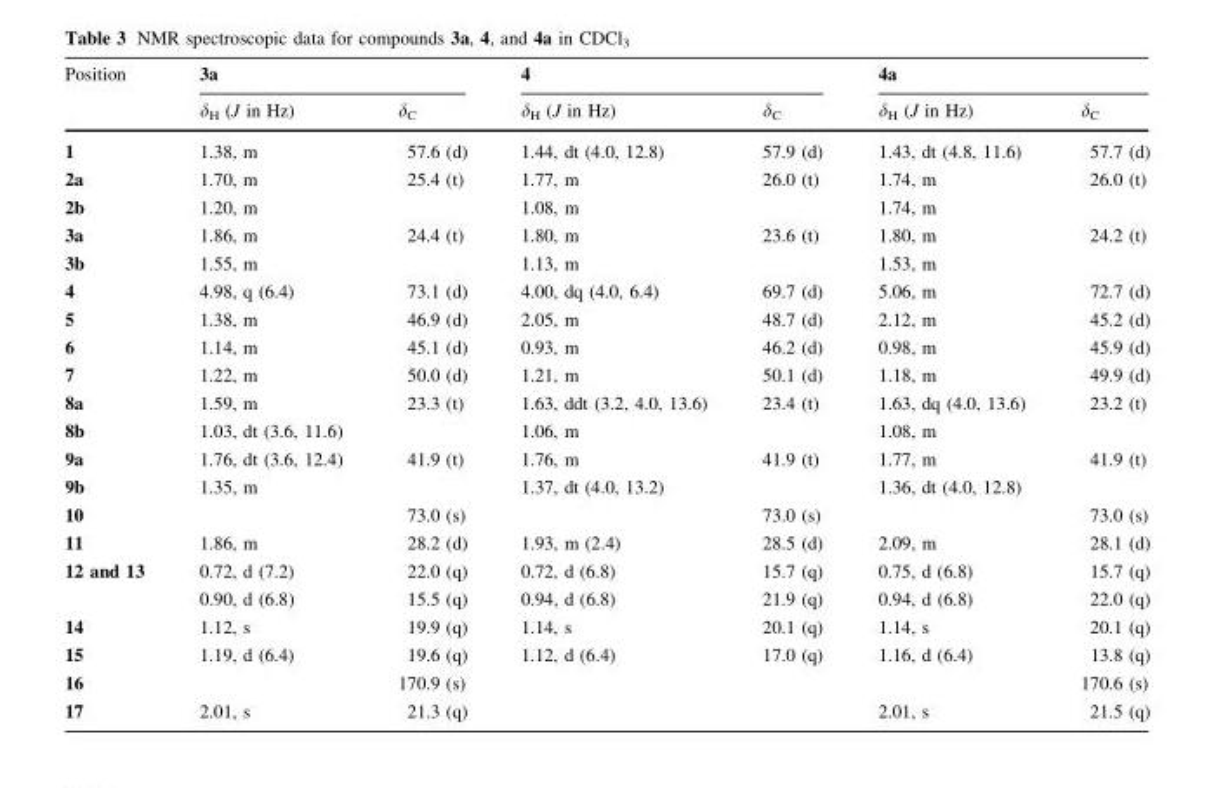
<table><thead><tr><td rowspan="2">Position</td><td colspan="2">3a</td><td colspan="2">4</td><td colspan="2">4a</td></tr><tr><td>δ<sub>H</sub> (J in Hz)</td><td>δ<sub>C</sub></td><td>δ<sub>H</sub> (J in Hz)</td><td>δ<sub>C</sub></td><td>δ<sub>H</sub> (J in Hz)</td><td>δ<sub>C</sub></td></tr></thead><tbody><tr><td>1</td><td>1.38, m</td><td>57.6 (d)</td><td>1.44, dt (4.0, 12.8)</td><td>57.9 (d)</td><td>1.43, dt (4.8, 11.6)</td><td>57.7 (d)</td></tr><tr><td>2a</td><td>1.70, m</td><td>25.4 (t)</td><td>1.77, m</td><td>26.0 (t)</td><td>1.74, m</td><td>26.0 (t)</td></tr><tr><td>2b</td><td>1.20, m</td><td></td><td>1.08, m</td><td></td><td>1.74, m</td><td></td></tr><tr><td>3a</td><td>1.86, m</td><td>24.4 (t)</td><td>1.80, m</td><td>23.6 (t)</td><td>1.80, m</td><td>24.2 (t)</td></tr><tr><td>3b</td><td>1.55, m</td><td></td><td>1.13, m</td><td></td><td>1.53, m</td><td></td></tr><tr><td>4</td><td>4.98, q (6.4)</td><td>73.1 (d)</td><td>4.00, dq (4.0, 6.4)</td><td>69.7 (d)</td><td>5.06, m</td><td>72.7 (d)</td></tr><tr><td>5</td><td>1.38, m</td><td>46.9 (d)</td><td>2.05, m</td><td>48.7 (d)</td><td>2.12, m</td><td>45.2 (d)</td></tr><tr><td>6</td><td>1.14, m</td><td>45.1 (d)</td><td>0.93, m</td><td>46.2 (d)</td><td>0.98, m</td><td>45.9 (d)</td></tr><tr><td>7</td><td>1.22, m</td><td>50.0 (d)</td><td>1.21, m</td><td>50.1 (d)</td><td>1.18, m</td><td>49.9 (d)</td></tr><tr><td>8a</td><td>1.59, m</td><td>23.3 (t)</td><td>1.63, ddt (3.2, 4.0, 13.6)</td><td>23.4 (t)</td><td>1.63, dq (4.0, 13.6)</td><td>23.2 (t)</td></tr><tr><td>8b</td><td>1.03, dt (3.6, 11.6)</td><td></td><td>1.06, m</td><td></td><td>1.08, m</td><td></td></tr><tr><td>9a</td><td>1.76, dt (3.6, 12.4)</td><td>41.9 (t)</td><td>1.76, m</td><td>41.9 (t)</td><td>1.77, m</td><td>41.9 (t)</td></tr><tr><td>9b</td><td>1.35, m</td><td></td><td>1.37, dt (4.0, 13.2)</td><td></td><td>1.36, dt (4.0, 12.8)</td><td></td></tr><tr><td>10</td><td></td><td>73.0 (s)</td><td></td><td>73.0 (s)</td><td></td><td>73.0 (s)</td></tr><tr><td>11</td><td>1.86, m</td><td>28.2 (d)</td><td>1.93, m (2.4)</td><td>28.5 (d)</td><td>2.09, m</td><td>28.1 (d)</td></tr><tr><td rowspan="2">12 and 13</td><td rowspan="2">0.72, d (7.2) 0.90, d (6.8)</td><td>22.0 (q)</td><td rowspan="2">0.72, d (6.8) 0.94, d (6.8)</td><td>15.7 (q)</td><td rowspan="2">0.75, d (6.8) 0.94, d (6.8)</td><td>15.7 (q)</td></tr><tr><td>15.5 (q)</td><td>21.9 (q)</td><td>22.0 (q)</td></tr><tr><td>14</td><td>1.12, s</td><td>19.9 (q)</td><td>1.14, s</td><td>20.1 (q)</td><td>1.14, s</td><td>20.1 (q)</td></tr><tr><td>15</td><td>1.19, d (6.4)</td><td>19.6 (q)</td><td>1.12, d (6.4)</td><td>17.0 (q)</td><td>1.16, d (6.4)</td><td>13.8 (q)</td></tr><tr><td>16</td><td></td><td>170.9 (s)</td><td></td><td></td><td></td><td>170.6 (s)</td></tr><tr><td>17</td><td>2.01, s</td><td>21.3 (q)</td><td></td><td></td><td>2.01, s</td><td>21.5 (q)</td></tr></tbody></table>